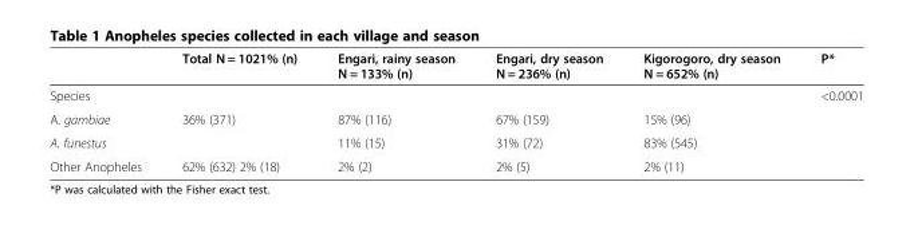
<table><thead><tr><td></td><td>Total N = 1021% (n)</td><td>Engari, rainy season N = 133% (n)</td><td>Engari, dry season N = 236% (n)</td><td>Kigorogoro, dry season N = 652% (n)</td><td>P*</td></tr></thead><tbody><tr><td>Species</td><td></td><td></td><td></td><td></td><td>&lt;0.0001</td></tr><tr><td>A. gambiae</td><td>36% (371)</td><td>87% (116)</td><td>67% (159)</td><td>15% (96)</td><td></td></tr><tr><td>A. funestus</td><td></td><td>11% (15)</td><td>31% (72)</td><td>83% (545)</td><td></td></tr><tr><td>Other Anopheles</td><td>62% (632) 2% (18)</td><td>2% (2)</td><td>2% (5)</td><td>2% (11)</td><td></td></tr></tbody></table>